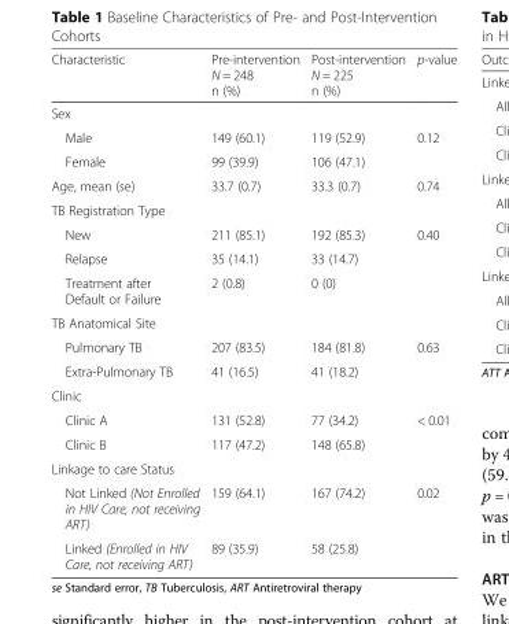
<table><thead><tr><td>Characteristic</td><td>Pre-intervention N = 248 n (%)</td><td>Post-intervention N = 225 n (%)</td><td>p-value</td></tr></thead><tbody><tr><td colspan="4">Sex</td></tr><tr><td>Male</td><td>149 (60.1)</td><td>119 (52.9)</td><td rowspan="2">0.12</td></tr><tr><td>Female</td><td>99 (39.9)</td><td>106 (47.1)</td></tr><tr><td>Age, mean (se)</td><td>33.7 (0.7)</td><td>33.3 (0.7)</td><td>0.74</td></tr><tr><td colspan="4">TB Registration Type</td></tr><tr><td>New</td><td>211 (85.1)</td><td>192 (85.3)</td><td rowspan="3">0.40</td></tr><tr><td>Relapse</td><td>35 (14.1)</td><td>33 (14.7)</td></tr><tr><td>Treatment after Default or Failure</td><td>2 (0.8)</td><td>0 (0)</td></tr><tr><td colspan="4">TB Anatomical Site</td></tr><tr><td>Pulmonary TB</td><td>207 (83.5)</td><td>184 (81.8)</td><td rowspan="2">0.63</td></tr><tr><td>Extra-Pulmonary TB</td><td>41 (16.5)</td><td>41 (18.2)</td></tr><tr><td colspan="4">Clinic</td></tr><tr><td>Clinic A</td><td>131 (52.8)</td><td>77 (34.2)</td><td rowspan="2">&lt; 0.01</td></tr><tr><td>Clinic B</td><td>117 (47.2)</td><td>148 (65.8)</td></tr><tr><td colspan="4">Linkage to care Status</td></tr><tr><td>Not Linked (Not Enrolled in HIV Care, not receiving ART)</td><td>159 (64.1)</td><td>167 (74.2)</td><td rowspan="2">0.02</td></tr><tr><td>Linked (Enrolled in HIV Care, not receiving ART)</td><td>89 (35.9)</td><td>58 (25.8)</td></tr></tbody></table>